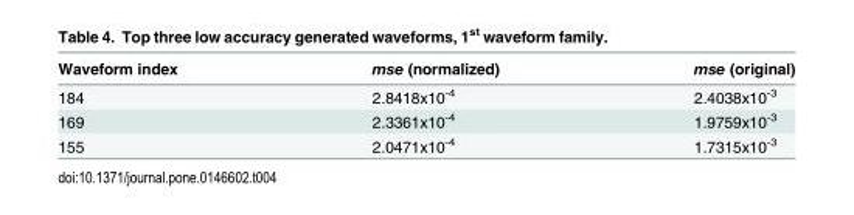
<table><thead><tr><td>Waveform index</td><td>mse (normalized)</td><td>mse (original)</td></tr></thead><tbody><tr><td>184</td><td>2.8418x10<sup>-4</sup></td><td>2.4038x10<sup>-3</sup></td></tr><tr><td>169</td><td>2.3361x10<sup>-4</sup></td><td>1.9759x10<sup>-3</sup></td></tr><tr><td>155</td><td>2.0471x10<sup>-4</sup></td><td>1.7315x10<sup>-3</sup></td></tr></tbody></table>